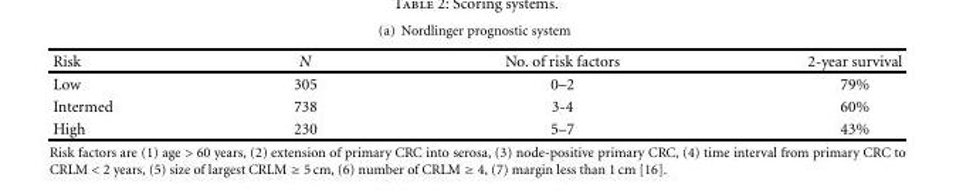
<table><thead><tr><td>Risk</td><td>N</td><td>No. of risk factors</td><td>2-year survival</td></tr></thead><tbody><tr><td>Low</td><td>305</td><td>0–2</td><td>79%</td></tr><tr><td>Intermed</td><td>738</td><td>3-4</td><td>60%</td></tr><tr><td>High</td><td>230</td><td>5–7</td><td>43%</td></tr></tbody></table>